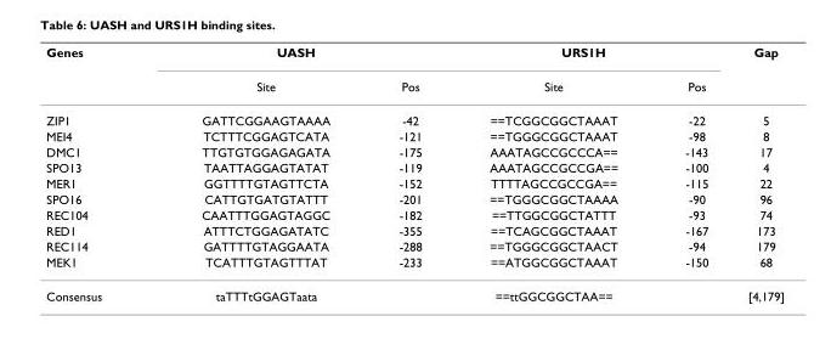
<table><thead><tr><td rowspan="2">Genes</td><td colspan="2">UASH</td><td colspan="2">URS1H</td><td rowspan="2">Gap</td></tr><tr><td>Site</td><td>Pos</td><td>Site</td><td>Pos</td></tr></thead><tbody><tr><td>ZIP1</td><td>GATTCGGAAGTAAAA</td><td>-42</td><td>==TCGGCGGCTAAAT</td><td>-22</td><td>5</td></tr><tr><td>MEI4</td><td>TCTTTCGGAGTCATA</td><td>-121</td><td>==TGGGCGGCTAAAT</td><td>-98</td><td>8</td></tr><tr><td>DMC1</td><td>TTGTGTGGAGAGATA</td><td>-175</td><td>AAATAGCCGCCCA==</td><td>-143</td><td>17</td></tr><tr><td>SPO13</td><td>TAATTAGGAGTATAT</td><td>-119</td><td>AAATAGCCGCCGA==</td><td>-100</td><td>4</td></tr><tr><td>MER1</td><td>GGTTTTGTAGTTCTA</td><td>-152</td><td>TTTTAGCCGCCGA==</td><td>-115</td><td>22</td></tr><tr><td>SPO16</td><td>CATTGTGATGTATTT</td><td>-201</td><td>==TGGGCGGCTAAAA</td><td>-90</td><td>96</td></tr><tr><td>REC104</td><td>CAATTTGGAGTAGGC</td><td>-182</td><td>==TTGGCGGCTATTT</td><td>-93</td><td>74</td></tr><tr><td>RED1</td><td>ATTTCTGGAGATATC</td><td>-355</td><td>==TCAGCGGCTAAAT</td><td>-167</td><td>173</td></tr><tr><td>REC114</td><td>GATTTTGTAGGAATA</td><td>-288</td><td>==TGGGCGGCTAACT</td><td>-94</td><td>179</td></tr><tr><td>MEK1</td><td>TCATTTGTAGTTTAT</td><td>-233</td><td>==ATGGCGGCTAAAT</td><td>-150</td><td>68</td></tr><tr><td>Consensus</td><td>taTTTtGGAGTaata</td><td></td><td>==ttGGCGGCTAA==</td><td></td><td>[4,179]</td></tr></tbody></table>